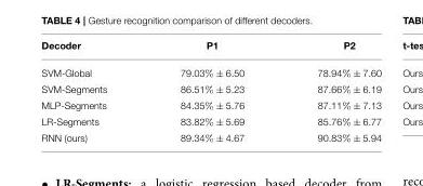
<table><thead><tr><td>Decoder</td><td>P1</td><td>P2</td></tr></thead><tbody><tr><td>SVM-Global</td><td>79.03% ± 6.50</td><td>78.94% ± 7.60</td></tr><tr><td>SVM-Segments</td><td>86.51% ± 5.23</td><td>87.66% ± 6.19</td></tr><tr><td>MLP-Segments</td><td>84.35% ± 5.76</td><td>87.11% ± 7.13</td></tr><tr><td>LR-Segments</td><td>83.82% ± 5.69</td><td>85.76% ± 6.77</td></tr><tr><td>RNN (ours)</td><td>89.34% ± 4.67</td><td>90.83% ± 5.94</td></tr></tbody></table>